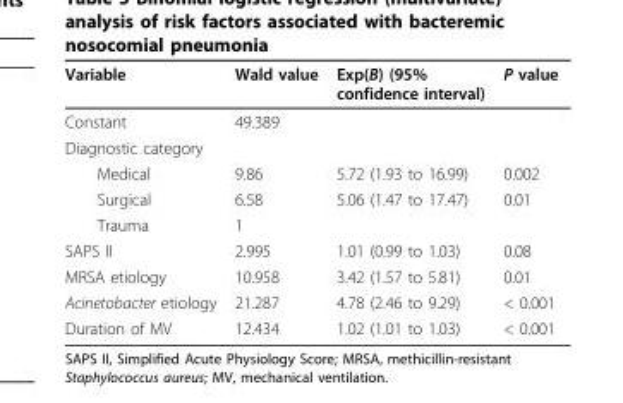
<table><thead><tr><td>Variable</td><td>Wald value</td><td>Exp(B) (95% confidence interval)</td><td>P value</td></tr></thead><tbody><tr><td>Constant</td><td>49.389</td><td></td><td></td></tr><tr><td colspan="4">Diagnostic category</td></tr><tr><td>Medical</td><td>9.86</td><td>5.72 (1.93 to 16.99)</td><td>0.002</td></tr><tr><td>Surgical</td><td>6.58</td><td>5.06 (1.47 to 17.47)</td><td>0.01</td></tr><tr><td>Trauma</td><td>1</td><td></td><td></td></tr><tr><td>SAPS II</td><td>2.995</td><td>1.01 (0.99 to 1.03)</td><td>0.08</td></tr><tr><td>MRSA etiology</td><td>10.958</td><td>3.42 (1.57 to 5.81)</td><td>0.01</td></tr><tr><td>Acinetobacter etiology</td><td>21.287</td><td>4.78 (2.46 to 9.29)</td><td>&lt; 0.001</td></tr><tr><td>Duration of MV</td><td>12.434</td><td>1.02 (1.01 to 1.03)</td><td>&lt; 0.001</td></tr></tbody></table>